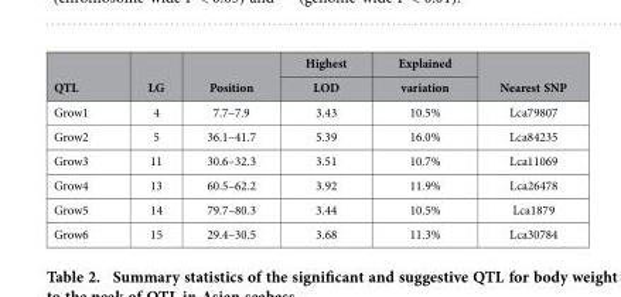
<table><thead><tr><td rowspan="2">QTL</td><td rowspan="2">LG</td><td rowspan="2">Position</td><td rowspan="2">Highest LOD</td><td rowspan="2">Explained variation</td><td rowspan="2">Nearest SNP</td></tr><tr></tr></thead><tbody><tr><td>Grow1</td><td>4</td><td>7.7–7.9</td><td>3.43</td><td>10.5%</td><td>Lca79807</td></tr><tr><td>Grow2</td><td>5</td><td>36.1–41.7</td><td>5.39</td><td>16.0%</td><td>Lca84235</td></tr><tr><td>Grow3</td><td>11</td><td>30.6–32.3</td><td>3.51</td><td>10.7%</td><td>Lca11069</td></tr><tr><td>Grow4</td><td>13</td><td>60.5–62.2</td><td>3.92</td><td>11.9%</td><td>Lca26478</td></tr><tr><td>Grow5</td><td>14</td><td>79.7–80.3</td><td>3.44</td><td>10.5%</td><td>Lca1879</td></tr><tr><td>Grow6</td><td>15</td><td>29.4–30.5</td><td>3.68</td><td>11.3%</td><td>Lca30784</td></tr></tbody></table>